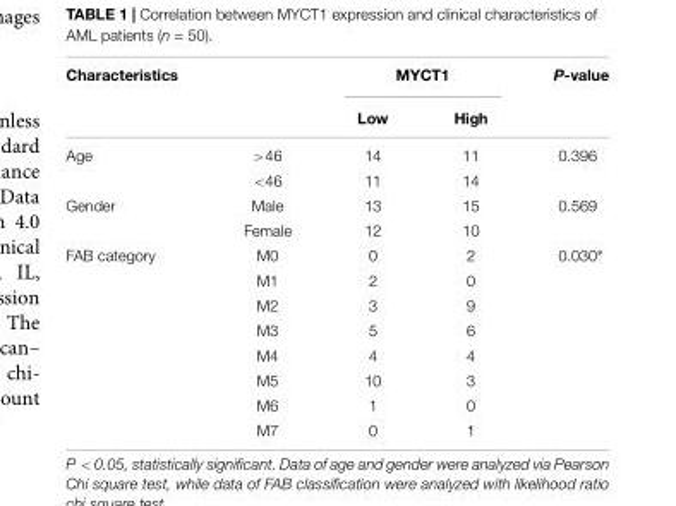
<table><thead><tr><td rowspan="2">Characteristics</td><td rowspan="2"></td><td colspan="2">MYCT1</td><td rowspan="2">P-value</td></tr><tr><td>Low</td><td>High</td></tr></thead><tbody><tr><td rowspan="2">Age</td><td>&gt;46</td><td>14</td><td>11</td><td>0.396</td></tr><tr><td>&lt;46</td><td>11</td><td>14</td><td></td></tr><tr><td rowspan="2">Gender</td><td>Male</td><td>13</td><td>15</td><td>0.569</td></tr><tr><td>Female</td><td>12</td><td>10</td><td></td></tr><tr><td rowspan="8">FAB category</td><td>M0</td><td>0</td><td>2</td><td>0.030∗</td></tr><tr><td>M1</td><td>2</td><td>0</td><td></td></tr><tr><td>M2</td><td>3</td><td>9</td><td></td></tr><tr><td>M3</td><td>5</td><td>6</td><td></td></tr><tr><td>M4</td><td>4</td><td>4</td><td></td></tr><tr><td>M5</td><td>10</td><td>3</td><td></td></tr><tr><td>M6</td><td>1</td><td>0</td><td></td></tr><tr><td>M7</td><td>0</td><td>1</td><td></td></tr></tbody></table>